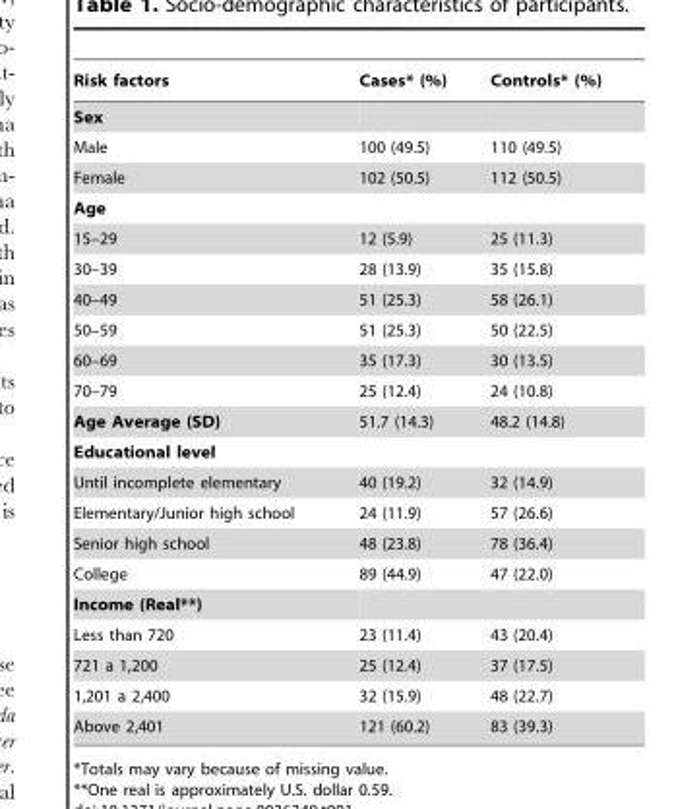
<table><thead><tr><td>Risk factors</td><td>Cases* (%)</td><td>Controls* (%)</td></tr></thead><tbody><tr><td colspan="3">Sex</td></tr><tr><td>Male</td><td>100 (49.5)</td><td>110 (49.5)</td></tr><tr><td>Female</td><td>102 (50.5)</td><td>112 (50.5)</td></tr><tr><td colspan="3">Age</td></tr><tr><td>15–29</td><td>12 (5.9)</td><td>25 (11.3)</td></tr><tr><td>30–39</td><td>28 (13.9)</td><td>35 (15.8)</td></tr><tr><td>40–49</td><td>51 (25.3)</td><td>58 (26.1)</td></tr><tr><td>50–59</td><td>51 (25.3)</td><td>50 (22.5)</td></tr><tr><td>60–69</td><td>35 (17.3)</td><td>30 (13.5)</td></tr><tr><td>70–79</td><td>25 (12.4)</td><td>24 (10.8)</td></tr><tr><td>Age Average (SD)</td><td>51.7 (14.3)</td><td>48.2 (14.8)</td></tr><tr><td colspan="3">Educational level</td></tr><tr><td>Until incomplete elementary</td><td>40 (19.2)</td><td>32 (14.9)</td></tr><tr><td>Elementary/Junior high school</td><td>24 (11.9)</td><td>57 (26.6)</td></tr><tr><td>Senior high school</td><td>48 (23.8)</td><td>78 (36.4)</td></tr><tr><td>College</td><td>89 (44.9)</td><td>47 (22.0)</td></tr><tr><td colspan="3">Income (Real**)</td></tr><tr><td>Less than 720</td><td>23 (11.4)</td><td>43 (20.4)</td></tr><tr><td>721 a 1,200</td><td>25 (12.4)</td><td>37 (17.5)</td></tr><tr><td>1,201 a 2,400</td><td>32 (15.9)</td><td>48 (22.7)</td></tr><tr><td>Above 2,401</td><td>121 (60.2)</td><td>83 (39.3)</td></tr></tbody></table>